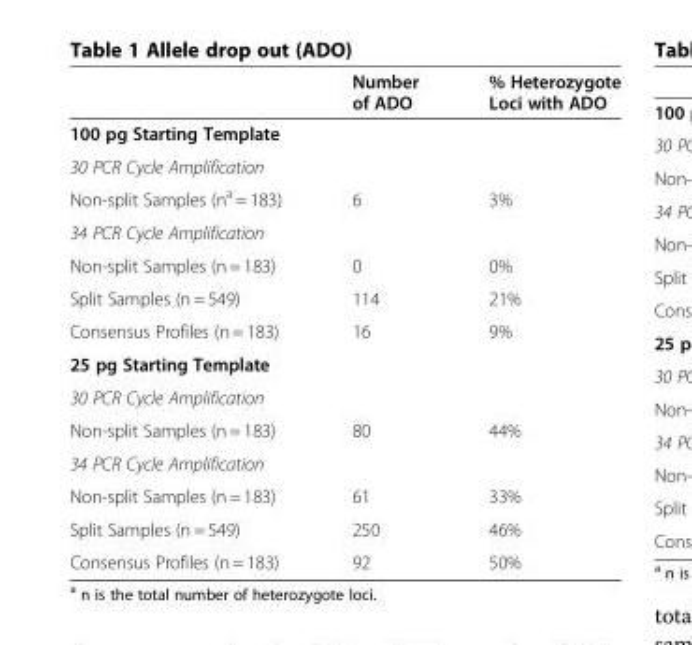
<table><thead><tr><td></td><td>Number of ADO</td><td>% Heterozygote Loci with ADO</td></tr></thead><tbody><tr><td colspan="3">100 pg Starting Template</td></tr><tr><td colspan="3">30 PCR Cycle Amplification</td></tr><tr><td>Non-split Samples (n<sup>a</sup> = 183)</td><td>6</td><td>3%</td></tr><tr><td colspan="3">34 PCR Cycle Amplification</td></tr><tr><td>Non-split Samples (n = 183)</td><td>0</td><td>0%</td></tr><tr><td>Split Samples (n = 549)</td><td>114</td><td>21%</td></tr><tr><td>Consensus Profiles (n = 183)</td><td>16</td><td>9%</td></tr><tr><td colspan="3">25 pg Starting Template</td></tr><tr><td colspan="3">30 PCR Cycle Amplification</td></tr><tr><td>Non-split Samples (n = 183)</td><td>80</td><td>44%</td></tr><tr><td colspan="3">34 PCR Cycle Amplification</td></tr><tr><td>Non-split Samples (n = 183)</td><td>61</td><td>33%</td></tr><tr><td>Split Samples (n = 549)</td><td>250</td><td>46%</td></tr><tr><td>Consensus Profiles (n = 183)</td><td>92</td><td>50%</td></tr></tbody></table>